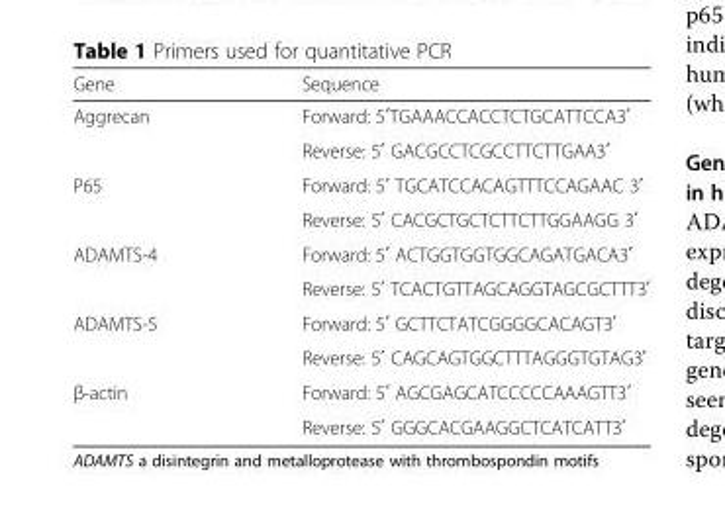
<table><thead><tr><td>Gene</td><td>Sequence</td></tr></thead><tbody><tr><td rowspan="2">Aggrecan</td><td>Forward: 5′TGAAACCACCTCTGCATTCCA3′</td></tr><tr><td>Reverse: 5′ GACGCCTCGCCTTCTTGAA3′</td></tr><tr><td rowspan="2">P65</td><td>Forward: 5′ TGCATCCACAGTTTCCAGAAC 3′</td></tr><tr><td>Reverse: 5′ CACGCTGCTCTTCTTGGAAGG 3′</td></tr><tr><td rowspan="2">ADAMTS-4</td><td>Forward: 5′ ACTGGTGGTGGCAGATGACA3′</td></tr><tr><td>Reverse: 5′ TCACTGTTAGCAGGTAGCGCTTT3′</td></tr><tr><td rowspan="2">ADAMTS-5</td><td>Forward: 5′ GCTTCTATCGGGGCACAGT3′</td></tr><tr><td>Reverse: 5′ CAGCAGTGGCTTTAGGGTGTAG3′</td></tr><tr><td rowspan="2">β-actin</td><td>Forward: 5′ AGCGAGCATCCCCCAAAGTT3′</td></tr><tr><td>Reverse: 5′ GGGCACGAAGGCTCATCATT3′</td></tr></tbody></table>